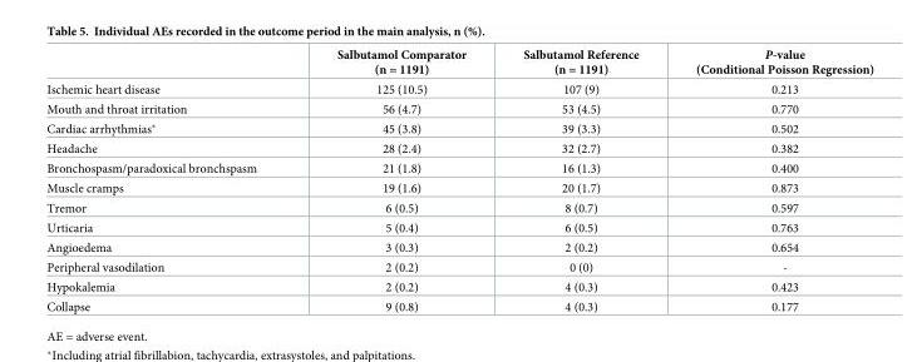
<table><thead><tr><td></td><td>Salbutamol Comparator (n = 1191)</td><td>Salbutamol Reference (n = 1191)</td><td>P-value (Conditional Poisson Regression)</td></tr></thead><tbody><tr><td>Ischemic heart disease</td><td>125 (10.5)</td><td>107 (9)</td><td>0.213</td></tr><tr><td>Mouth and throat irritation</td><td>56 (4.7)</td><td>53 (4.5)</td><td>0.770</td></tr><tr><td>Cardiac arrhythmias*</td><td>45 (3.8)</td><td>39 (3.3)</td><td>0.502</td></tr><tr><td>Headache</td><td>28 (2.4)</td><td>32 (2.7)</td><td>0.382</td></tr><tr><td>Bronchospasm/paradoxical bronchspasm</td><td>21 (1.8)</td><td>16 (1.3)</td><td>0.400</td></tr><tr><td>Muscle cramps</td><td>19 (1.6)</td><td>20 (1.7)</td><td>0.873</td></tr><tr><td>Tremor</td><td>6 (0.5)</td><td>8 (0.7)</td><td>0.597</td></tr><tr><td>Urticaria</td><td>5 (0.4)</td><td>6 (0.5)</td><td>0.763</td></tr><tr><td>Angioedema</td><td>3 (0.3)</td><td>2 (0.2)</td><td>0.654</td></tr><tr><td>Peripheral vasodilation</td><td>2 (0.2)</td><td>0 (0)</td><td>-</td></tr><tr><td>Hypokalemia</td><td>2 (0.2)</td><td>4 (0.3)</td><td>0.423</td></tr><tr><td>Collapse</td><td>9 (0.8)</td><td>4 (0.3)</td><td>0.177</td></tr></tbody></table>